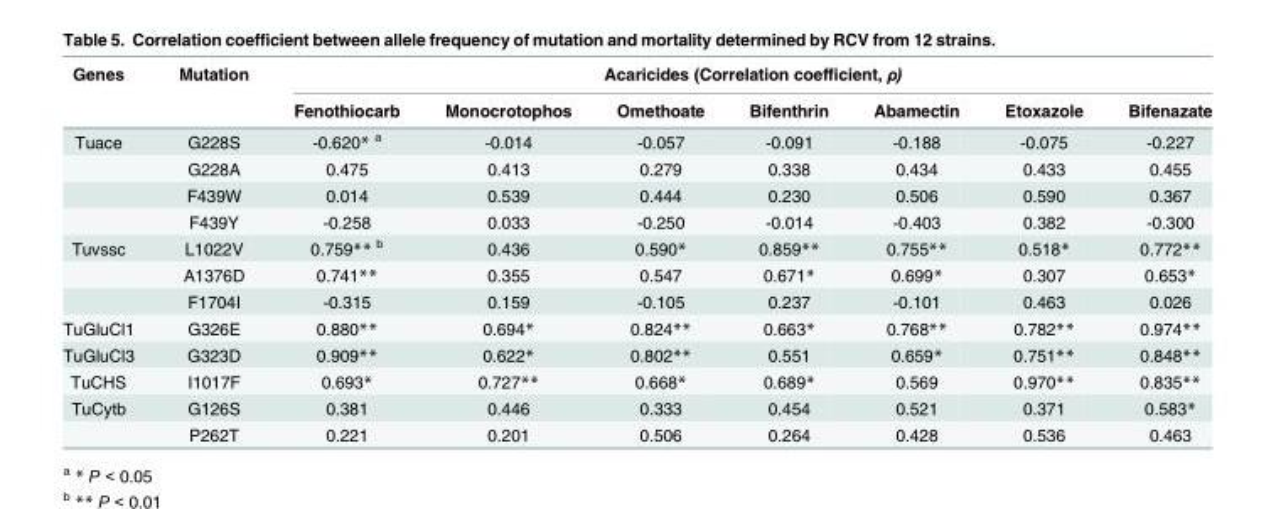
<table><thead><tr><td rowspan="2">Genes</td><td rowspan="2">Mutation</td><td colspan="7">Acaricides (Correlation coefficient, ρ)</td></tr><tr><td>Fenothiocarb</td><td>Monocrotophos</td><td>Omethoate</td><td>Bifenthrin</td><td>Abamectin</td><td>Etoxazole</td><td>Bifenazate</td></tr></thead><tbody><tr><td rowspan="4">Tuace</td><td>G228S</td><td>-0.620* <sup>a</sup></td><td>-0.014</td><td>-0.057</td><td>-0.091</td><td>-0.188</td><td>-0.075</td><td>-0.227</td></tr><tr><td>G228A</td><td>0.475</td><td>0.413</td><td>0.279</td><td>0.338</td><td>0.434</td><td>0.433</td><td>0.455</td></tr><tr><td>F439W</td><td>0.014</td><td>0.539</td><td>0.444</td><td>0.230</td><td>0.506</td><td>0.590</td><td>0.367</td></tr><tr><td>F439Y</td><td>-0.258</td><td>0.033</td><td>-0.250</td><td>-0.014</td><td>-0.403</td><td>0.382</td><td>-0.300</td></tr><tr><td rowspan="3">Tuvssc</td><td>L1022V</td><td>0.759** <sup>b</sup></td><td>0.436</td><td>0.590*</td><td>0.859**</td><td>0.755**</td><td>0.518*</td><td>0.772**</td></tr><tr><td>A1376D</td><td>0.741**</td><td>0.355</td><td>0.547</td><td>0.671*</td><td>0.699*</td><td>0.307</td><td>0.653*</td></tr><tr><td>F1704I</td><td>-0.315</td><td>0.159</td><td>-0.105</td><td>0.237</td><td>-0.101</td><td>0.463</td><td>0.026</td></tr><tr><td>TuGluCl1</td><td>G326E</td><td>0.880**</td><td>0.694*</td><td>0.824**</td><td>0.663*</td><td>0.768**</td><td>0.782**</td><td>0.974**</td></tr><tr><td>TuGluCl3</td><td>G323D</td><td>0.909**</td><td>0.622*</td><td>0.802**</td><td>0.551</td><td>0.659*</td><td>0.751**</td><td>0.848**</td></tr><tr><td>TuCHS</td><td>I1017F</td><td>0.693*</td><td>0.727**</td><td>0.668*</td><td>0.689*</td><td>0.569</td><td>0.970**</td><td>0.835**</td></tr><tr><td rowspan="2">TuCytb</td><td>G126S</td><td>0.381</td><td>0.446</td><td>0.333</td><td>0.454</td><td>0.521</td><td>0.371</td><td>0.583*</td></tr><tr><td>P262T</td><td>0.221</td><td>0.201</td><td>0.506</td><td>0.264</td><td>0.428</td><td>0.536</td><td>0.463</td></tr></tbody></table>